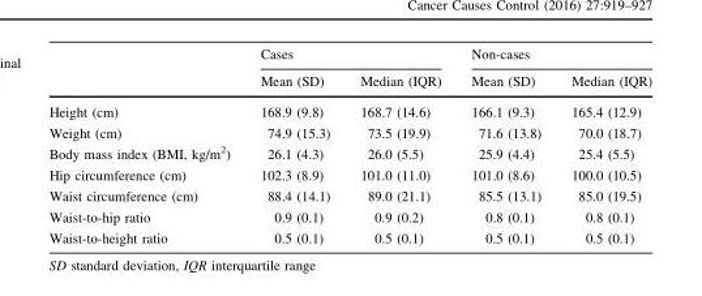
<table><thead><tr><td rowspan="2"></td><td colspan="2">Cases</td><td colspan="2">Non-cases</td></tr><tr><td>Mean (SD)</td><td>Median (IQR)</td><td>Mean (SD)</td><td>Median (IQR)</td></tr></thead><tbody><tr><td>Height (cm)</td><td>168.9 (9.8)</td><td>168.7 (14.6)</td><td>166.1 (9.3)</td><td>165.4 (12.9)</td></tr><tr><td>Weight (cm)</td><td>74.9 (15.3)</td><td>73.5 (19.9)</td><td>71.6 (13.8)</td><td>70.0 (18.7)</td></tr><tr><td>Body mass index (BMI, kg/m<sup>2</sup>)</td><td>26.1 (4.3)</td><td>26.0 (5.5)</td><td>25.9 (4.4)</td><td>25.4 (5.5)</td></tr><tr><td>Hip circumference (cm)</td><td>102.3 (8.9)</td><td>101.0 (11.0)</td><td>101.0 (8.6)</td><td>100.0 (10.5)</td></tr><tr><td>Waist circumference (cm)</td><td>88.4 (14.1)</td><td>89.0 (21.1)</td><td>85.5 (13.1)</td><td>85.0 (19.5)</td></tr><tr><td>Waist-to-hip ratio</td><td>0.9 (0.1)</td><td>0.9 (0.2)</td><td>0.8 (0.1)</td><td>0.8 (0.1)</td></tr><tr><td>Waist-to-height ratio</td><td>0.5 (0.1)</td><td>0.5 (0.1)</td><td>0.5 (0.1)</td><td>0.5 (0.1)</td></tr></tbody></table>